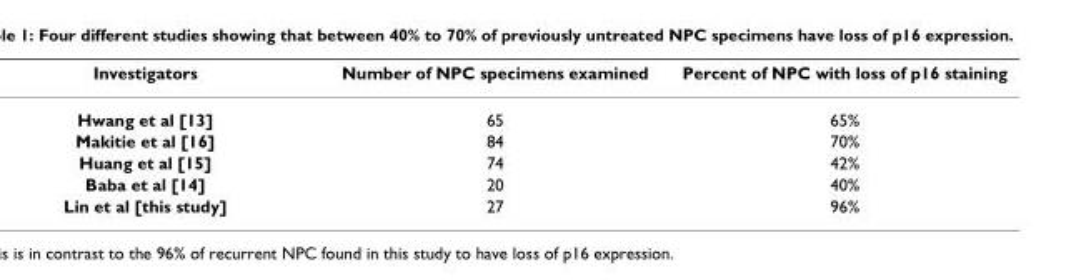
<table><thead><tr><td>Investigators</td><td>Number of NPC specimens examined</td><td>Percent of NPC with loss of p16 staining</td></tr></thead><tbody><tr><td>Hwang et al [13]</td><td>65</td><td>65%</td></tr><tr><td>Makitie et al [16]</td><td>84</td><td>70%</td></tr><tr><td>Huang et al [15]</td><td>74</td><td>42%</td></tr><tr><td>Baba et al [14]</td><td>20</td><td>40%</td></tr><tr><td>Lin et al [this study]</td><td>27</td><td>96%</td></tr></tbody></table>